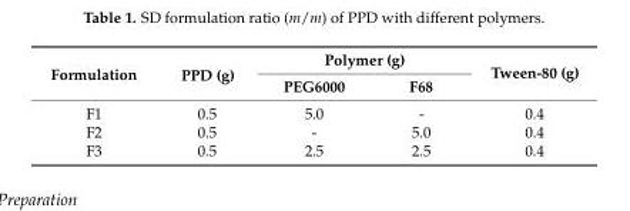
<table><thead><tr><td rowspan="2">Formulation</td><td rowspan="2">PPD (g)</td><td colspan="2">Polymer (g)</td><td rowspan="2">Tween-80 (g)</td></tr><tr><td>PEG6000</td><td>F68</td></tr></thead><tbody><tr><td>F1</td><td>0.5</td><td>5.0</td><td>-</td><td>0.4</td></tr><tr><td>F2</td><td>0.5</td><td>-</td><td>5.0</td><td>0.4</td></tr><tr><td>F3</td><td>0.5</td><td>2.5</td><td>2.5</td><td>0.4</td></tr></tbody></table>